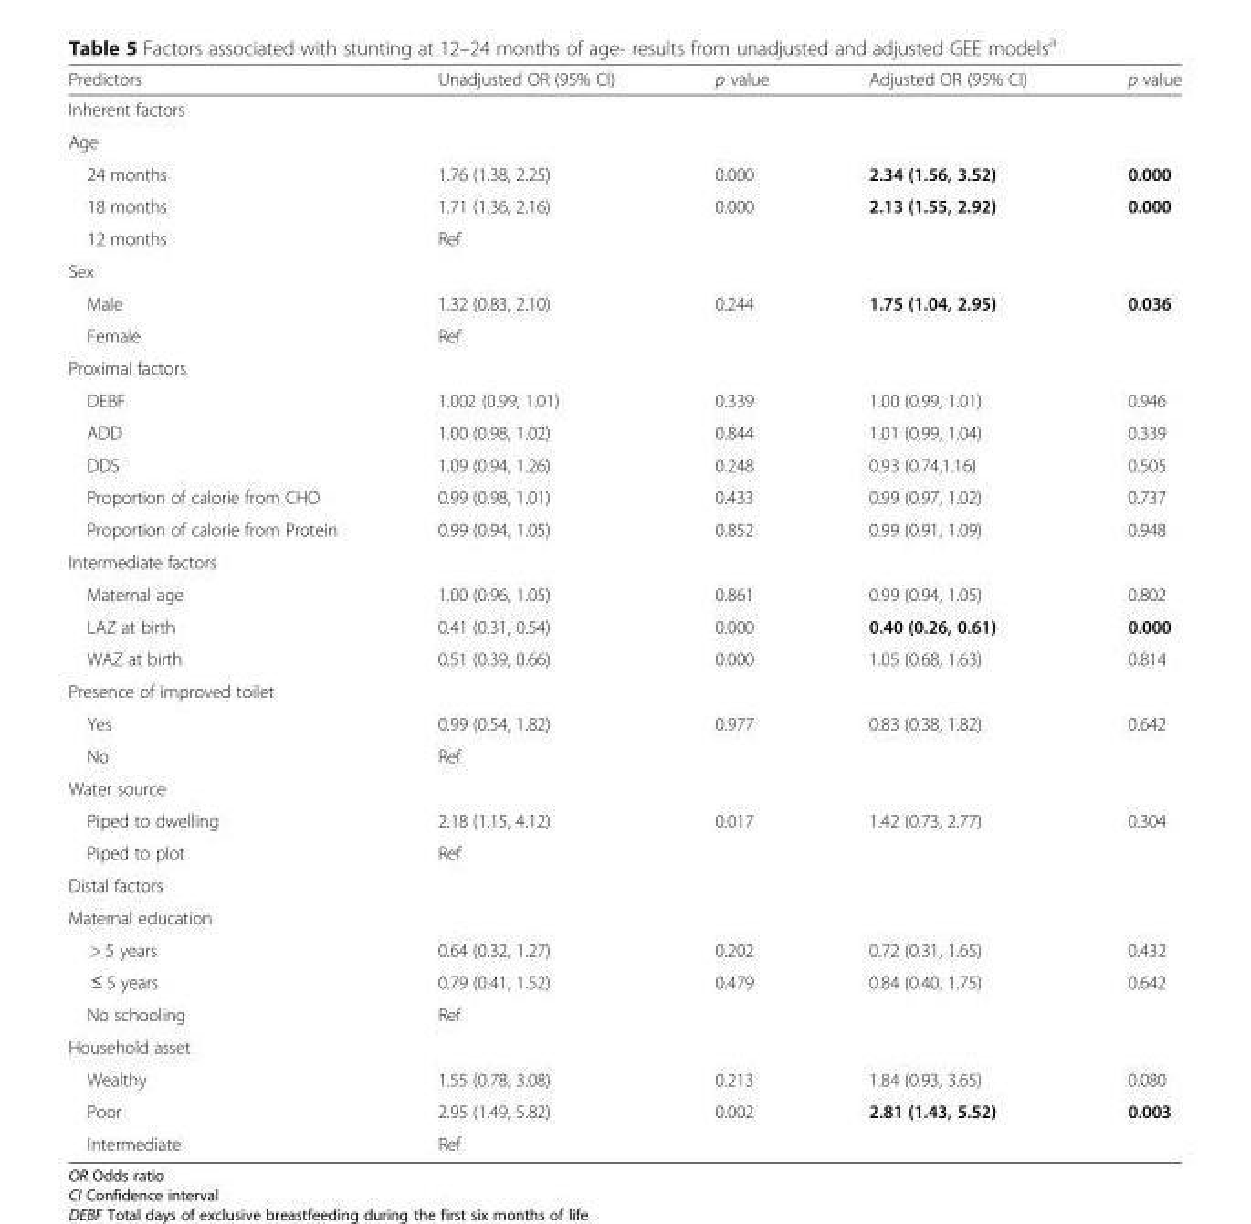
<table><thead><tr><td>Predictors</td><td>Unadjusted OR (95% CI)</td><td>p value</td><td>Adjusted OR (95% CI)</td><td>p value</td></tr></thead><tbody><tr><td colspan="5">Inherent factors</td></tr><tr><td colspan="5">Age</td></tr><tr><td>24 months</td><td>1.76 (1.38, 2.25)</td><td>0.000</td><td>2.34 (1.56, 3.52)</td><td>0.000</td></tr><tr><td>18 months</td><td>1.71 (1.36, 2.16)</td><td>0.000</td><td>2.13 (1.55, 2.92)</td><td>0.000</td></tr><tr><td>12 months</td><td>Ref</td><td></td><td></td><td></td></tr><tr><td colspan="5">Sex</td></tr><tr><td>Male</td><td>1.32 (0.83, 2.10)</td><td>0.244</td><td>1.75 (1.04, 2.95)</td><td>0.036</td></tr><tr><td>Female</td><td>Ref</td><td></td><td></td><td></td></tr><tr><td colspan="5">Proximal factors</td></tr><tr><td>DEBF</td><td>1.002 (0.99, 1.01)</td><td>0.339</td><td>1.00 (0.99, 1.01)</td><td>0.946</td></tr><tr><td>ADD</td><td>1.00 (0.98, 1.02)</td><td>0.844</td><td>1.01 (0.99, 1.04)</td><td>0.339</td></tr><tr><td>DDS</td><td>1.09 (0.94, 1.26)</td><td>0.248</td><td>0.93 (0.74,1.16)</td><td>0.505</td></tr><tr><td>Proportion of calorie from CHO</td><td>0.99 (0.98, 1.01)</td><td>0.433</td><td>0.99 (0.97, 1.02)</td><td>0.737</td></tr><tr><td>Proportion of calorie from Protein</td><td>0.99 (0.94, 1.05)</td><td>0.852</td><td>0.99 (0.91, 1.09)</td><td>0.948</td></tr><tr><td colspan="5">Intermediate factors</td></tr><tr><td>Maternal age</td><td>1.00 (0.96, 1.05)</td><td>0.861</td><td>0.99 (0.94, 1.05)</td><td>0.802</td></tr><tr><td>LAZ at birth</td><td>0.41 (0.31, 0.54)</td><td>0.000</td><td>0.40 (0.26, 0.61)</td><td>0.000</td></tr><tr><td>WAZ at birth</td><td>0.51 (0.39, 0.66)</td><td>0.000</td><td>1.05 (0.68, 1.63)</td><td>0.814</td></tr><tr><td colspan="5">Presence of improved toilet</td></tr><tr><td>Yes</td><td>0.99 (0.54, 1.82)</td><td>0.977</td><td>0.83 (0.38, 1.82)</td><td>0.642</td></tr><tr><td>No</td><td>Ref</td><td></td><td></td><td></td></tr><tr><td colspan="5">Water source</td></tr><tr><td>Piped to dwelling</td><td>2.18 (1.15, 4.12)</td><td>0.017</td><td>1.42 (0.73, 2.77)</td><td>0.304</td></tr><tr><td>Piped to plot</td><td>Ref</td><td></td><td></td><td></td></tr><tr><td colspan="5">Distal factors</td></tr><tr><td colspan="5">Maternal education</td></tr><tr><td>&gt; 5 years</td><td>0.64 (0.32, 1.27)</td><td>0.202</td><td>0.72 (0.31, 1.65)</td><td>0.432</td></tr><tr><td>≤ 5 years</td><td>0.79 (0.41, 1.52)</td><td>0.479</td><td>0.84 (0.40, 1.75)</td><td>0.642</td></tr><tr><td>No schooling</td><td>Ref</td><td></td><td></td><td></td></tr><tr><td colspan="5">Household asset</td></tr><tr><td>Wealthy</td><td>1.55 (0.78, 3.08)</td><td>0.213</td><td>1.84 (0.93, 3.65)</td><td>0.080</td></tr><tr><td>Poor</td><td>2.95 (1.49, 5.82)</td><td>0.002</td><td>2.81 (1.43, 5.52)</td><td>0.003</td></tr><tr><td>Intermediate</td><td>Ref</td><td></td><td></td><td></td></tr></tbody></table>